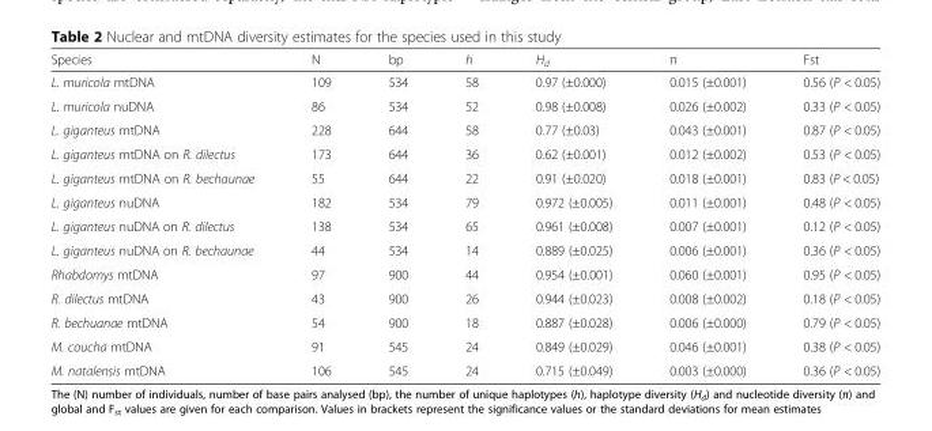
<table><thead><tr><td>Species</td><td>N</td><td>bp</td><td>h</td><td>H<sub>d</sub></td><td>π</td><td>Fst</td></tr></thead><tbody><tr><td>L. muricola mtDNA</td><td>109</td><td>534</td><td>58</td><td>0.97 (±0.000)</td><td>0.015 (±0.001)</td><td>0.56 (P &lt; 0.05)</td></tr><tr><td>L. muricola nuDNA</td><td>86</td><td>534</td><td>52</td><td>0.98 (±0.008)</td><td>0.026 (±0.002)</td><td>0.33 (P &lt; 0.05)</td></tr><tr><td>L. giganteus mtDNA</td><td>228</td><td>644</td><td>58</td><td>0.77 (±0.03)</td><td>0.043 (±0.001)</td><td>0.87 (P &lt; 0.05)</td></tr><tr><td>L. giganteus mtDNA on R. dilectus</td><td>173</td><td>644</td><td>36</td><td>0.62 (±0.001)</td><td>0.012 (±0.002)</td><td>0.53 (P &lt; 0.05)</td></tr><tr><td>L. giganteus mtDNA on R. bechaunae</td><td>55</td><td>644</td><td>22</td><td>0.91 (±0.020)</td><td>0.018 (±0.001)</td><td>0.83 (P &lt; 0.05)</td></tr><tr><td>L. giganteus nuDNA</td><td>182</td><td>534</td><td>79</td><td>0.972 (±0.005)</td><td>0.011 (±0.001)</td><td>0.48 (P &lt; 0.05)</td></tr><tr><td>L. giganteus nuDNA on R. dilectus</td><td>138</td><td>534</td><td>65</td><td>0.961 (±0.008)</td><td>0.007 (±0.001)</td><td>0.12 (P &lt; 0.05)</td></tr><tr><td>L. giganteus nuDNA on R. bechaunae</td><td>44</td><td>534</td><td>14</td><td>0.889 (±0.025)</td><td>0.006 (±0.001)</td><td>0.36 (P &lt; 0.05)</td></tr><tr><td>Rhabdomys mtDNA</td><td>97</td><td>900</td><td>44</td><td>0.954 (±0.001)</td><td>0.060 (±0.001)</td><td>0.95 (P &lt; 0.05)</td></tr><tr><td>R. dilectus mtDNA</td><td>43</td><td>900</td><td>26</td><td>0.944 (±0.023)</td><td>0.008 (±0.002)</td><td>0.18 (P &lt; 0.05)</td></tr><tr><td>R. bechuanae mtDNA</td><td>54</td><td>900</td><td>18</td><td>0.887 (±0.028)</td><td>0.006 (±0.000)</td><td>0.79 (P &lt; 0.05)</td></tr><tr><td>M. coucha mtDNA</td><td>91</td><td>545</td><td>24</td><td>0.849 (±0.029)</td><td>0.046 (±0.001)</td><td>0.38 (P &lt; 0.05)</td></tr><tr><td>M. natalensis mtDNA</td><td>106</td><td>545</td><td>24</td><td>0.715 (±0.049)</td><td>0.003 (±0.000)</td><td>0.36 (P &lt; 0.05)</td></tr></tbody></table>